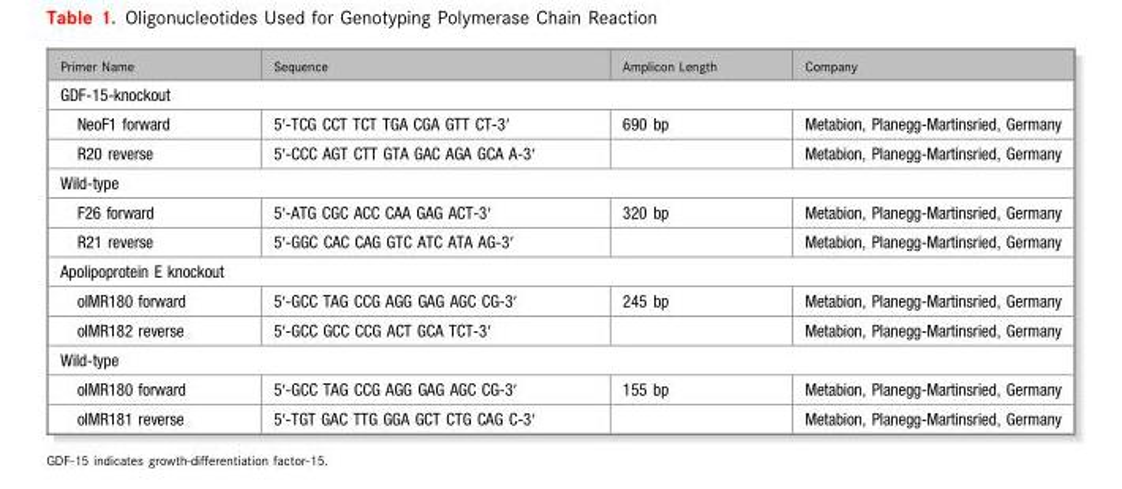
<table><thead><tr><td>Primer Name</td><td>Sequence</td><td>Amplicon Length</td><td>Company</td></tr></thead><tbody><tr><td colspan="4">GDF-15-knockout</td></tr><tr><td>NeoF1 forward</td><td>5′-TCG CCT TCT TGA CGA GTT CT-3′</td><td>690 bp</td><td>Metabion, Planegg-Martinsried, Germany</td></tr><tr><td>R20 reverse</td><td>5′-CCC AGT CTT GTA GAC AGA GCA A-3′</td><td></td><td>Metabion, Planegg-Martinsried, Germany</td></tr><tr><td colspan="4">Wild-type</td></tr><tr><td>F26 forward</td><td>5′-ATG CGC ACC CAA GAG ACT-3′</td><td>320 bp</td><td>Metabion, Planegg-Martinsried, Germany</td></tr><tr><td>R21 reverse</td><td>5′-GGC CAC CAG GTC ATC ATA AG-3′</td><td></td><td>Metabion, Planegg-Martinsried, Germany</td></tr><tr><td colspan="4">Apolipoprotein E knockout</td></tr><tr><td>oIMR180 forward</td><td>5′-GCC TAG CCG AGG GAG AGC CG-3′</td><td>245 bp</td><td>Metabion, Planegg-Martinsried, Germany</td></tr><tr><td>oIMR182 reverse</td><td>5′-GCC GCC CCG ACT GCA TCT-3′</td><td></td><td>Metabion, Planegg-Martinsried, Germany</td></tr><tr><td colspan="4">Wild-type</td></tr><tr><td>oIMR180 forward</td><td>5′-GCC TAG CCG AGG GAG AGC CG-3′</td><td>155 bp</td><td>Metabion, Planegg-Martinsried, Germany</td></tr><tr><td>oIMR181 reverse</td><td>5′-TGT GAC TTG GGA GCT CTG CAG C-3′</td><td></td><td>Metabion, Planegg-Martinsried, Germany</td></tr></tbody></table>